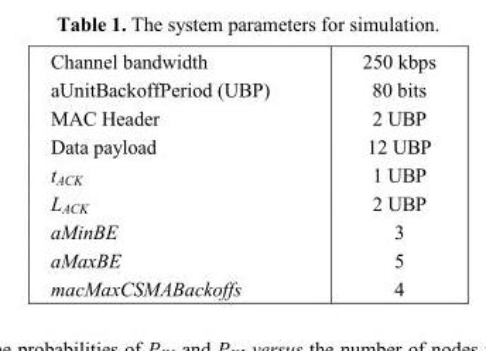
<table><tbody><tr><td>Channel bandwidth</td><td>250 kbps</td></tr><tr><td>aUnitBackoffPeriod (UBP)</td><td>80 bits</td></tr><tr><td>MAC Header</td><td>2 UBP</td></tr><tr><td>Data payload</td><td>12 UBP</td></tr><tr><td>t<sub>ACK</sub></td><td>1 UBP</td></tr><tr><td>L<sub>ACK</sub></td><td>2 UBP</td></tr><tr><td>aMinBE</td><td>3</td></tr><tr><td>aMaxBE</td><td>5</td></tr><tr><td>macMaxCSMABackoffs</td><td>4</td></tr></tbody></table>